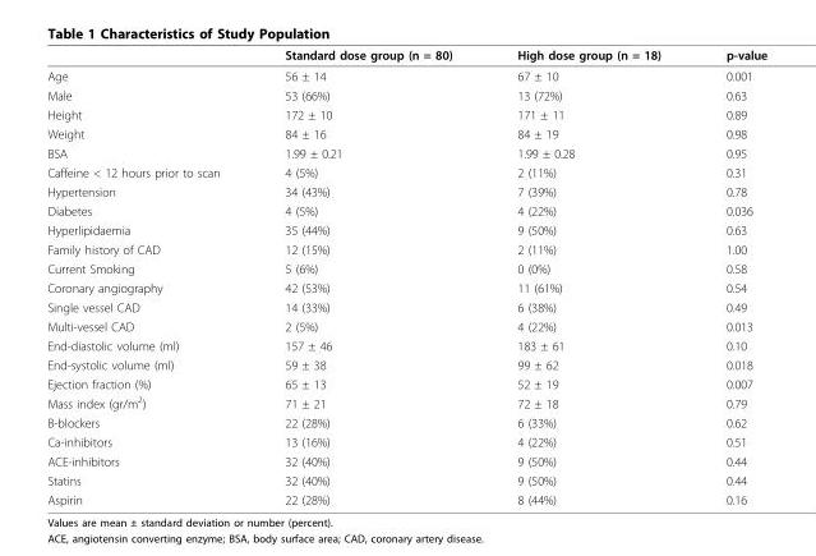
<table><thead><tr><td></td><td>Standard dose group (n = 80)</td><td>High dose group (n = 18)</td><td>p-value</td></tr></thead><tbody><tr><td>Age</td><td>56 ± 14</td><td>67 ± 10</td><td>0.001</td></tr><tr><td>Male</td><td>53 (66%)</td><td>13 (72%)</td><td>0.63</td></tr><tr><td>Height</td><td>172 ± 10</td><td>171 ± 11</td><td>0.89</td></tr><tr><td>Weight</td><td>84 ± 16</td><td>84 ± 19</td><td>0.98</td></tr><tr><td>BSA</td><td>1.99 ± 0.21</td><td>1.99 ± 0.28</td><td>0.95</td></tr><tr><td>Caffeine &lt; 12 hours prior to scan</td><td>4 (5%)</td><td>2 (11%)</td><td>0.31</td></tr><tr><td>Hypertension</td><td>34 (43%)</td><td>7 (39%)</td><td>0.78</td></tr><tr><td>Diabetes</td><td>4 (5%)</td><td>4 (22%)</td><td>0.036</td></tr><tr><td>Hyperlipidaemia</td><td>35 (44%)</td><td>9 (50%)</td><td>0.63</td></tr><tr><td>Family history of CAD</td><td>12 (15%)</td><td>2 (11%)</td><td>1.00</td></tr><tr><td>Current Smoking</td><td>5 (6%)</td><td>0 (0%)</td><td>0.58</td></tr><tr><td>Coronary angiography</td><td>42 (53%)</td><td>11 (61%)</td><td>0.54</td></tr><tr><td>Single vessel CAD</td><td>14 (33%)</td><td>6 (38%)</td><td>0.49</td></tr><tr><td>Multi-vessel CAD</td><td>2 (5%)</td><td>4 (22%)</td><td>0.013</td></tr><tr><td>End-diastolic volume (ml)</td><td>157 ± 46</td><td>183 ± 61</td><td>0.10</td></tr><tr><td>End-systolic volume (ml)</td><td>59 ± 38</td><td>99 ± 62</td><td>0.018</td></tr><tr><td>Ejection fraction (%)</td><td>65 ± 13</td><td>52 ± 19</td><td>0.007</td></tr><tr><td>Mass index (gr/m<sup>2</sup>)</td><td>71 ± 21</td><td>72 ± 18</td><td>0.79</td></tr><tr><td>B-blockers</td><td>22 (28%)</td><td>6 (33%)</td><td>0.62</td></tr><tr><td>Ca-inhibitors</td><td>13 (16%)</td><td>4 (22%)</td><td>0.51</td></tr><tr><td>ACE-inhibitors</td><td>32 (40%)</td><td>9 (50%)</td><td>0.44</td></tr><tr><td>Statins</td><td>32 (40%)</td><td>9 (50%)</td><td>0.44</td></tr><tr><td>Aspirin</td><td>22 (28%)</td><td>8 (44%)</td><td>0.16</td></tr></tbody></table>